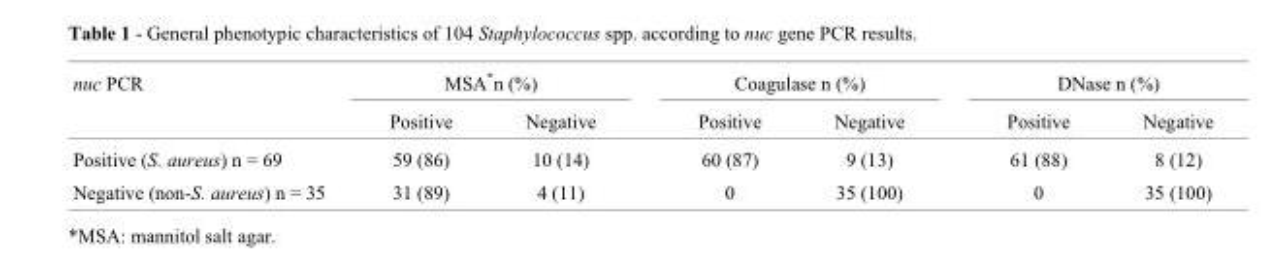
<table><thead><tr><td rowspan="2">nuc PCR</td><td colspan="2">MSA*n (%)</td><td colspan="2">Coagulase n (%)</td><td colspan="2">DNase n (%)</td></tr><tr><td>Positive</td><td>Negative</td><td>Positive</td><td>Negative</td><td>Positive</td><td>Negative</td></tr></thead><tbody><tr><td>Positive (S. aureus) n = 69</td><td>59 (86)</td><td>10 (14)</td><td>60 (87)</td><td>9 (13)</td><td>61 (88)</td><td>8 (12)</td></tr><tr><td>Negative (non-S. aureus) n = 35</td><td>31 (89)</td><td>4 (11)</td><td>0</td><td>35 (100)</td><td>0</td><td>35 (100)</td></tr></tbody></table>